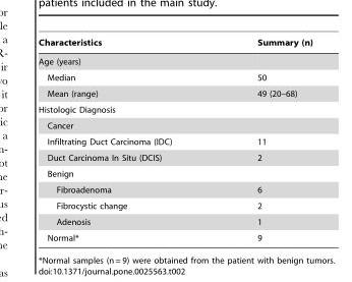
<table><thead><tr><td>Characteristics</td><td>Summary (n)</td></tr></thead><tbody><tr><td colspan="2">Age (years)</td></tr><tr><td>Median</td><td>50</td></tr><tr><td>Mean (range)</td><td>49 (20–68)</td></tr><tr><td colspan="2">Histologic Diagnosis</td></tr><tr><td colspan="2">Cancer</td></tr><tr><td>Infiltrating Duct Carcinoma (IDC)</td><td>11</td></tr><tr><td>Duct Carcinoma In Situ (DCIS)</td><td>2</td></tr><tr><td colspan="2">Benign</td></tr><tr><td>Fibroadenoma</td><td>6</td></tr><tr><td>Fibrocystic change</td><td>2</td></tr><tr><td>Adenosis</td><td>1</td></tr><tr><td>Normal*</td><td>9</td></tr></tbody></table>